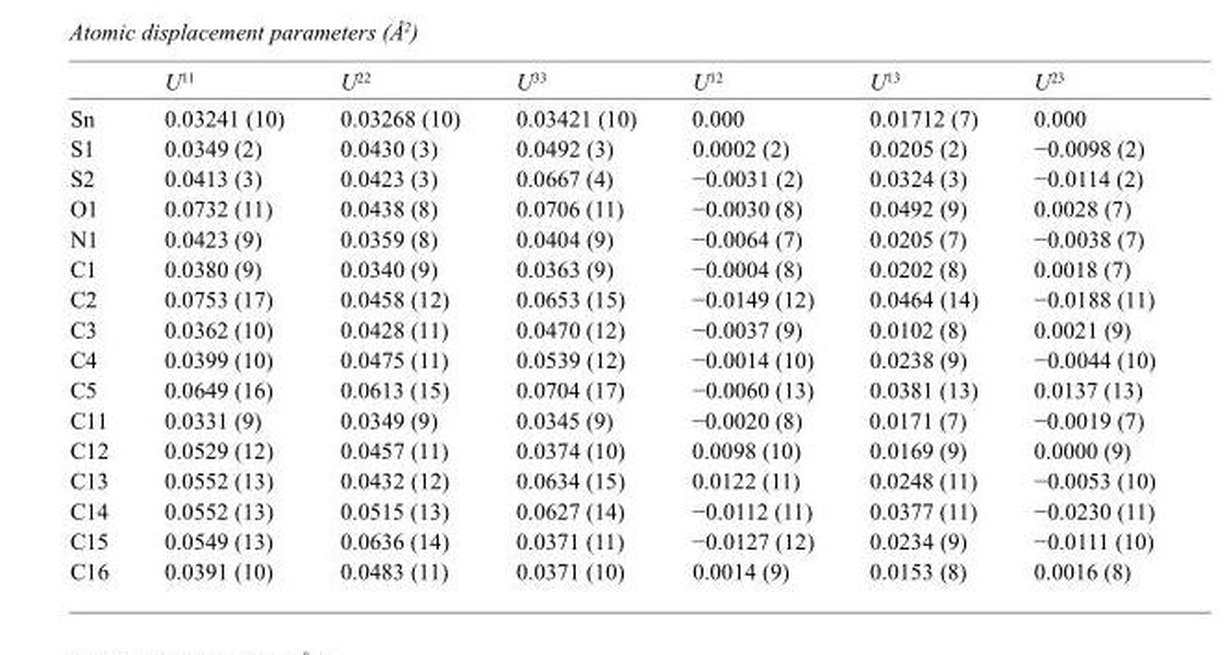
<table><thead><tr><td></td><td>U<sup>11</sup></td><td>U<sup>22</sup></td><td>U<sup>33</sup></td><td>U<sup>12</sup></td><td>U<sup>13</sup></td><td>U<sup>23</sup></td></tr></thead><tbody><tr><td>Sn</td><td>0.03241 (10)</td><td>0.03268 (10)</td><td>0.03421 (10)</td><td>0.000</td><td>0.01712 (7)</td><td>0.000</td></tr><tr><td>S1</td><td>0.0349 (2)</td><td>0.0430 (3)</td><td>0.0492 (3)</td><td>0.0002 (2)</td><td>0.0205 (2)</td><td>−0.0098 (2)</td></tr><tr><td>S2</td><td>0.0413 (3)</td><td>0.0423 (3)</td><td>0.0667 (4)</td><td>−0.0031 (2)</td><td>0.0324 (3)</td><td>−0.0114 (2)</td></tr><tr><td>O1</td><td>0.0732 (11)</td><td>0.0438 (8)</td><td>0.0706 (11)</td><td>−0.0030 (8)</td><td>0.0492 (9)</td><td>0.0028 (7)</td></tr><tr><td>N1</td><td>0.0423 (9)</td><td>0.0359 (8)</td><td>0.0404 (9)</td><td>−0.0064 (7)</td><td>0.0205 (7)</td><td>−0.0038 (7)</td></tr><tr><td>C1</td><td>0.0380 (9)</td><td>0.0340 (9)</td><td>0.0363 (9)</td><td>−0.0004 (8)</td><td>0.0202 (8)</td><td>0.0018 (7)</td></tr><tr><td>C2</td><td>0.0753 (17)</td><td>0.0458 (12)</td><td>0.0653 (15)</td><td>−0.0149 (12)</td><td>0.0464 (14)</td><td>−0.0188 (11)</td></tr><tr><td>C3</td><td>0.0362 (10)</td><td>0.0428 (11)</td><td>0.0470 (12)</td><td>−0.0037 (9)</td><td>0.0102 (8)</td><td>0.0021 (9)</td></tr><tr><td>C4</td><td>0.0399 (10)</td><td>0.0475 (11)</td><td>0.0539 (12)</td><td>−0.0014 (10)</td><td>0.0238 (9)</td><td>−0.0044 (10)</td></tr><tr><td>C5</td><td>0.0649 (16)</td><td>0.0613 (15)</td><td>0.0704 (17)</td><td>−0.0060 (13)</td><td>0.0381 (13)</td><td>0.0137 (13)</td></tr><tr><td>C11</td><td>0.0331 (9)</td><td>0.0349 (9)</td><td>0.0345 (9)</td><td>−0.0020 (8)</td><td>0.0171 (7)</td><td>−0.0019 (7)</td></tr><tr><td>C12</td><td>0.0529 (12)</td><td>0.0457 (11)</td><td>0.0374 (10)</td><td>0.0098 (10)</td><td>0.0169 (9)</td><td>0.0000 (9)</td></tr><tr><td>C13</td><td>0.0552 (13)</td><td>0.0432 (12)</td><td>0.0634 (15)</td><td>0.0122 (11)</td><td>0.0248 (11)</td><td>−0.0053 (10)</td></tr><tr><td>C14</td><td>0.0552 (13)</td><td>0.0515 (13)</td><td>0.0627 (14)</td><td>−0.0112 (11)</td><td>0.0377 (11)</td><td>−0.0230 (11)</td></tr><tr><td>C15</td><td>0.0549 (13)</td><td>0.0636 (14)</td><td>0.0371 (11)</td><td>−0.0127 (12)</td><td>0.0234 (9)</td><td>−0.0111 (10)</td></tr><tr><td>C16</td><td>0.0391 (10)</td><td>0.0483 (11)</td><td>0.0371 (10)</td><td>0.0014 (9)</td><td>0.0153 (8)</td><td>0.0016 (8)</td></tr></tbody></table>